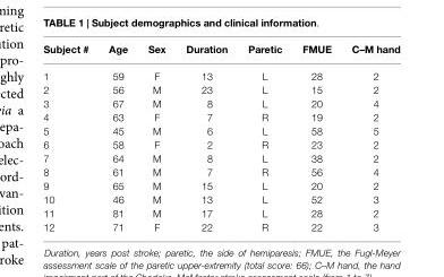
<table><thead><tr><td>Subject #</td><td>Age</td><td>Sex</td><td>Duration</td><td>Paretic</td><td>FMUE</td><td>C–M hand</td></tr></thead><tbody><tr><td>1</td><td>59</td><td>F</td><td>13</td><td>L</td><td>28</td><td>2</td></tr><tr><td>2</td><td>56</td><td>M</td><td>23</td><td>L</td><td>15</td><td>2</td></tr><tr><td>3</td><td>67</td><td>M</td><td>8</td><td>L</td><td>20</td><td>4</td></tr><tr><td>4</td><td>63</td><td>F</td><td>7</td><td>R</td><td>19</td><td>2</td></tr><tr><td>5</td><td>45</td><td>M</td><td>6</td><td>L</td><td>58</td><td>5</td></tr><tr><td>6</td><td>58</td><td>F</td><td>2</td><td>R</td><td>23</td><td>2</td></tr><tr><td>7</td><td>64</td><td>M</td><td>8</td><td>L</td><td>38</td><td>2</td></tr><tr><td>8</td><td>61</td><td>M</td><td>7</td><td>R</td><td>56</td><td>4</td></tr><tr><td>9</td><td>65</td><td>M</td><td>15</td><td>L</td><td>20</td><td>2</td></tr><tr><td>10</td><td>46</td><td>M</td><td>13</td><td>L</td><td>52</td><td>3</td></tr><tr><td>11</td><td>81</td><td>M</td><td>17</td><td>L</td><td>28</td><td>2</td></tr><tr><td>12</td><td>71</td><td>F</td><td>22</td><td>R</td><td>22</td><td>3</td></tr></tbody></table>